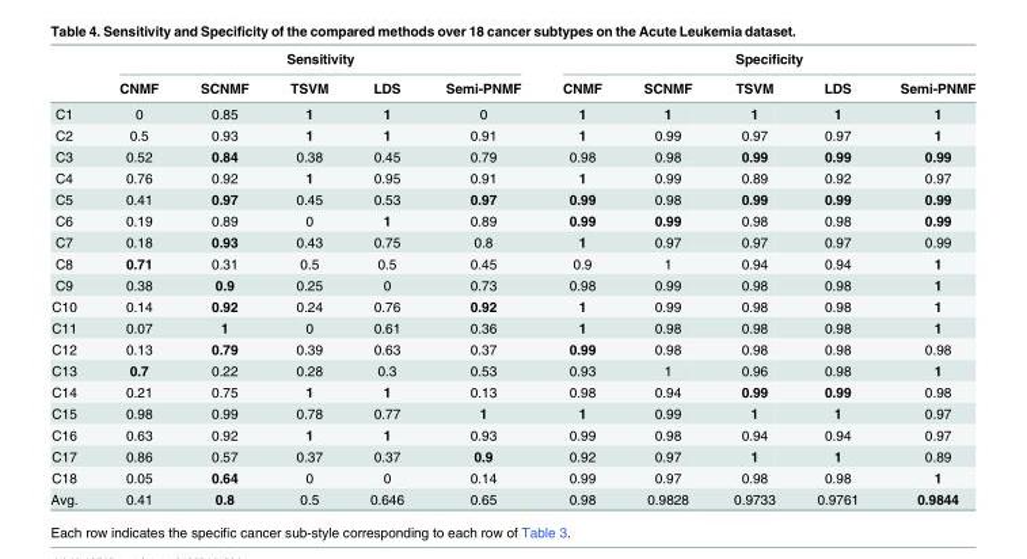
<table><thead><tr><td rowspan="2"></td><td colspan="5">Sensitivity</td><td colspan="5">Specificity</td></tr><tr><td>CNMF</td><td>SCNMF</td><td>TSVM</td><td>LDS</td><td>Semi-PNMF</td><td>CNMF</td><td>SCNMF</td><td>TSVM</td><td>LDS</td><td>Semi-PNMF</td></tr></thead><tbody><tr><td>C1</td><td>0</td><td>0.85</td><td>1</td><td>1</td><td>0</td><td>1</td><td>1</td><td>1</td><td>1</td><td>1</td></tr><tr><td>C2</td><td>0.5</td><td>0.93</td><td>1</td><td>1</td><td>0.91</td><td>1</td><td>0.99</td><td>0.97</td><td>0.97</td><td>1</td></tr><tr><td>C3</td><td>0.52</td><td>0.84</td><td>0.38</td><td>0.45</td><td>0.79</td><td>0.98</td><td>0.98</td><td>0.99</td><td>0.99</td><td>0.99</td></tr><tr><td>C4</td><td>0.76</td><td>0.92</td><td>1</td><td>0.95</td><td>0.91</td><td>1</td><td>0.99</td><td>0.89</td><td>0.92</td><td>0.97</td></tr><tr><td>C5</td><td>0.41</td><td>0.97</td><td>0.45</td><td>0.53</td><td>0.97</td><td>0.99</td><td>0.98</td><td>0.99</td><td>0.99</td><td>0.99</td></tr><tr><td>C6</td><td>0.19</td><td>0.89</td><td>0</td><td>1</td><td>0.89</td><td>0.99</td><td>0.99</td><td>0.98</td><td>0.98</td><td>0.99</td></tr><tr><td>C7</td><td>0.18</td><td>0.93</td><td>0.43</td><td>0.75</td><td>0.8</td><td>1</td><td>0.97</td><td>0.97</td><td>0.97</td><td>0.99</td></tr><tr><td>C8</td><td>0.71</td><td>0.31</td><td>0.5</td><td>0.5</td><td>0.45</td><td>0.9</td><td>1</td><td>0.94</td><td>0.94</td><td>1</td></tr><tr><td>C9</td><td>0.38</td><td>0.9</td><td>0.25</td><td>0</td><td>0.73</td><td>0.98</td><td>0.99</td><td>0.98</td><td>0.98</td><td>1</td></tr><tr><td>C10</td><td>0.14</td><td>0.92</td><td>0.24</td><td>0.76</td><td>0.92</td><td>1</td><td>0.99</td><td>0.98</td><td>0.98</td><td>1</td></tr><tr><td>C11</td><td>0.07</td><td>1</td><td>0</td><td>0.61</td><td>0.36</td><td>1</td><td>0.98</td><td>0.98</td><td>0.98</td><td>1</td></tr><tr><td>C12</td><td>0.13</td><td>0.79</td><td>0.39</td><td>0.63</td><td>0.37</td><td>0.99</td><td>0.98</td><td>0.98</td><td>0.98</td><td>0.98</td></tr><tr><td>C13</td><td>0.7</td><td>0.22</td><td>0.28</td><td>0.3</td><td>0.53</td><td>0.93</td><td>1</td><td>0.96</td><td>0.98</td><td>1</td></tr><tr><td>C14</td><td>0.21</td><td>0.75</td><td>1</td><td>1</td><td>0.13</td><td>0.98</td><td>0.94</td><td>0.99</td><td>0.99</td><td>0.98</td></tr><tr><td>C15</td><td>0.98</td><td>0.99</td><td>0.78</td><td>0.77</td><td>1</td><td>1</td><td>0.99</td><td>1</td><td>1</td><td>0.97</td></tr><tr><td>C16</td><td>0.63</td><td>0.92</td><td>1</td><td>1</td><td>0.93</td><td>0.99</td><td>0.98</td><td>0.94</td><td>0.94</td><td>0.97</td></tr><tr><td>C17</td><td>0.86</td><td>0.57</td><td>0.37</td><td>0.37</td><td>0.9</td><td>0.92</td><td>0.97</td><td>1</td><td>1</td><td>0.89</td></tr><tr><td>C18</td><td>0.05</td><td>0.64</td><td>0</td><td>0</td><td>0.14</td><td>0.99</td><td>0.97</td><td>0.98</td><td>0.98</td><td>1</td></tr><tr><td>Avg.</td><td>0.41</td><td>0.8</td><td>0.5</td><td>0.646</td><td>0.65</td><td>0.98</td><td>0.9828</td><td>0.9733</td><td>0.9761</td><td>0.9844</td></tr></tbody></table>